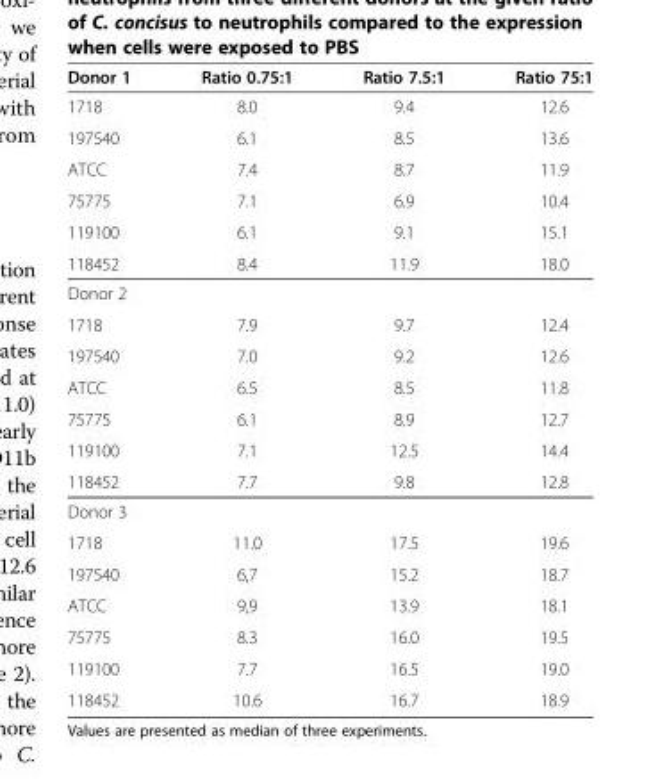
<table><thead><tr><td>Donor 1</td><td>Ratio 0.75:1</td><td>Ratio 7.5:1</td><td>Ratio 75:1</td></tr></thead><tbody><tr><td>1718</td><td>8.0</td><td>9.4</td><td>12.6</td></tr><tr><td>197540</td><td>6.1</td><td>8.5</td><td>13.6</td></tr><tr><td>ATCC</td><td>7.4</td><td>8.7</td><td>11.9</td></tr><tr><td>75775</td><td>7.1</td><td>6.9</td><td>10.4</td></tr><tr><td>119100</td><td>6.1</td><td>9.1</td><td>15.1</td></tr><tr><td>118452</td><td>8.4</td><td>11.9</td><td>18.0</td></tr><tr><td colspan="4">Donor 2</td></tr><tr><td>1718</td><td>7.9</td><td>9.7</td><td>12.4</td></tr><tr><td>197540</td><td>7.0</td><td>9.2</td><td>12.6</td></tr><tr><td>ATCC</td><td>6.5</td><td>8.5</td><td>11.8</td></tr><tr><td>75775</td><td>6.1</td><td>8.9</td><td>12.7</td></tr><tr><td>119100</td><td>7.1</td><td>12.5</td><td>14.4</td></tr><tr><td>118452</td><td>7.7</td><td>9.8</td><td>12.8</td></tr><tr><td colspan="4">Donor 3</td></tr><tr><td>1718</td><td>11.0</td><td>17.5</td><td>19.6</td></tr><tr><td>197540</td><td>6,7</td><td>15.2</td><td>18.7</td></tr><tr><td>ATCC</td><td>9,9</td><td>13.9</td><td>18.1</td></tr><tr><td>75775</td><td>8.3</td><td>16.0</td><td>19.5</td></tr><tr><td>119100</td><td>7.7</td><td>16.5</td><td>19.0</td></tr><tr><td>118452</td><td>10.6</td><td>16.7</td><td>18.9</td></tr></tbody></table>